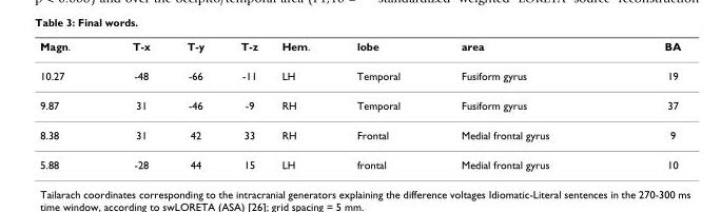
<table><thead><tr><td>Magn.</td><td>T-x</td><td>T-y</td><td>T-z</td><td>Hem.</td><td>lobe</td><td>area</td><td>BA</td></tr></thead><tbody><tr><td>10.27</td><td>-48</td><td>-66</td><td>-11</td><td>LH</td><td>Temporal</td><td>Fusiform gyrus</td><td>19</td></tr><tr><td>9.87</td><td>31</td><td>-46</td><td>-9</td><td>RH</td><td>Temporal</td><td>Fusiform gyrus</td><td>37</td></tr><tr><td>8.38</td><td>31</td><td>42</td><td>33</td><td>RH</td><td>Frontal</td><td>Medial frontal gyrus</td><td>9</td></tr><tr><td>5.88</td><td>-28</td><td>44</td><td>15</td><td>LH</td><td>frontal</td><td>Medial frontal gyrus</td><td>10</td></tr></tbody></table>